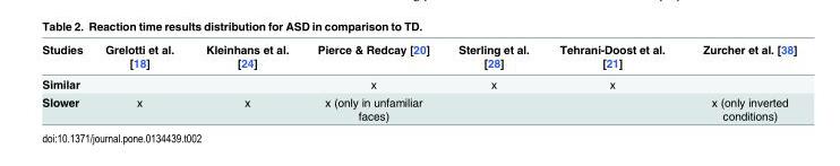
<table><thead><tr><td>Studies</td><td>Grelotti et al. [18]</td><td>Kleinhans et al. [24]</td><td>Pierce &amp; Redcay [20]</td><td>Sterling et al. [28]</td><td>Tehrani-Doost et al. [21]</td><td>Zurcher et al. [38]</td></tr></thead><tbody><tr><td>Similar</td><td></td><td></td><td>x</td><td>x</td><td>x</td><td></td></tr><tr><td>Slower</td><td>x</td><td>x</td><td>x (only in unfamiliar faces)</td><td></td><td></td><td>x (only inverted conditions)</td></tr></tbody></table>